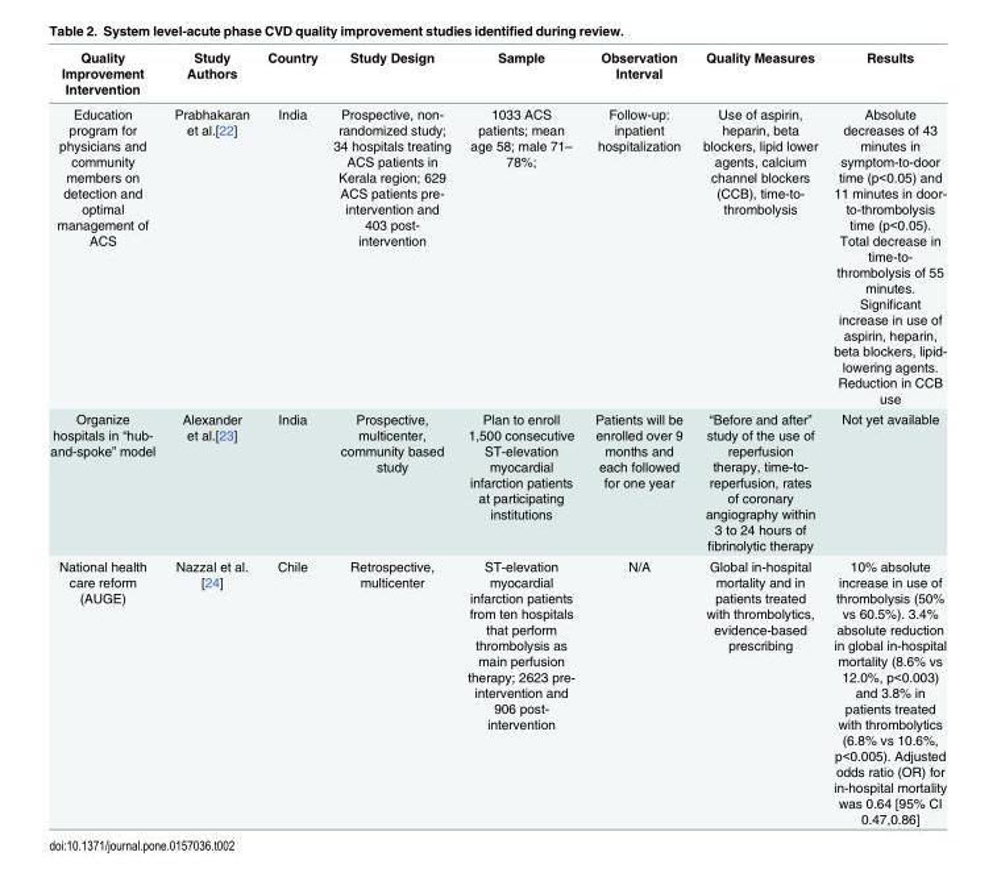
<table><thead><tr><td>Quality Improvement Intervention</td><td>Study Authors</td><td>Country</td><td>Study Design</td><td>Sample</td><td>Observation Interval</td><td>Quality Measures</td><td>Results</td></tr></thead><tbody><tr><td>Education program for physicians and community members on detection and optimal management of ACS</td><td>Prabhakaran et al.[22]</td><td>India</td><td>Prospective, non- randomized study; 34 hospitals treating ACS patients in Kerala region; 629 ACS patients pre- intervention and 403 post- intervention</td><td>1033 ACS patients; mean age 58; male 71– 78%;</td><td>Follow-up: inpatient hospitalization</td><td>Use of aspirin, heparin, beta blockers, lipid lower agents, calcium channel blockers (CCB), time-to- thrombolysis</td><td>Absolute decreases of 43 minutes in symptom-to-door time (p&lt;0.05) and 11 minutes in door- to-thrombolysis time (p&lt;0.05). Total decrease in time-to- thrombolysis of 55 minutes. Significant increase in use of aspirin, heparin, beta blockers, lipid- lowering agents. Reduction in CCB use</td></tr><tr><td>Organize hospitals in “hub- and-spoke” model</td><td>Alexander et al.[23]</td><td>India</td><td>Prospective, multicenter, community based study</td><td>Plan to enroll 1,500 consecutive ST-elevation myocardial infarction patients at participating institutions</td><td>Patients will be enrolled over 9 months and each followed for one year</td><td>“Before and after” study of the use of reperfusion therapy, time-to- reperfusion, rates of coronary angiography within 3 to 24 hours of fibrinolytic therapy</td><td>Not yet available</td></tr><tr><td>National health care reform (AUGE)</td><td>Nazzal et al. [24]</td><td>Chile</td><td>Retrospective, multicenter</td><td>ST-elevation myocardial infarction patients from ten hospitals that perform thrombolysis as main perfusion therapy; 2623 pre- intervention and 906 post- intervention</td><td>N/A</td><td>Global in-hospital mortality and in patients treated with thrombolytics, evidence-based prescribing</td><td>10% absolute increase in use of thrombolysis (50% vs 60.5%). 3.4% absolute reduction in global in-hospital mortality (8.6% vs 12.0%, p&lt;0.003) and 3.8% in patients treated with thrombolytics (6.8% vs 10.6%, p&lt;0.005). Adjusted odds ratio (OR) for in-hospital mortality was 0.64 [95% CI 0.47,0.86]</td></tr></tbody></table>